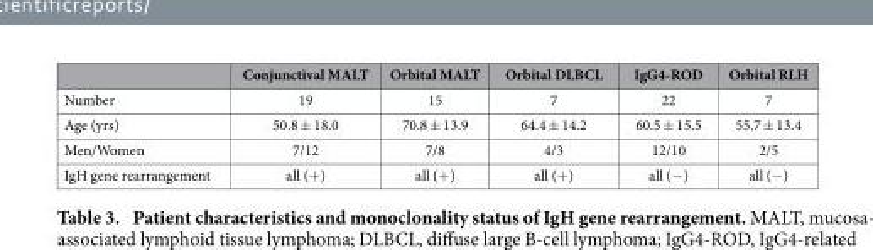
<table><thead><tr><td></td><td>Conjunctival MALT</td><td>Orbital MALT</td><td>Orbital DLBCL</td><td>IgG4-ROD</td><td>Orbital RLH</td></tr></thead><tbody><tr><td>Number</td><td>19</td><td>15</td><td>7</td><td>22</td><td>7</td></tr><tr><td>Age (yrs)</td><td>50.8 ± 18.0</td><td>70.8 ± 13.9</td><td>64.4 ± 14.2</td><td>60.5 ± 15.5</td><td>55.7 ± 13.4</td></tr><tr><td>Men/Women</td><td>7/12</td><td>7/8</td><td>4/3</td><td>12/10</td><td>2/5</td></tr><tr><td>IgH gene rearrangement</td><td>all (+ )</td><td>all (+ )</td><td>all (+ )</td><td>all (− )</td><td>all (− )</td></tr></tbody></table>